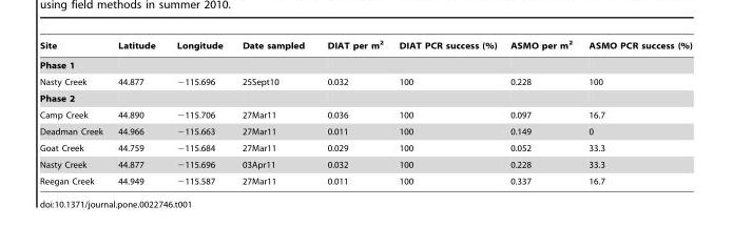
<table><thead><tr><td>Site</td><td>Latitude</td><td>Longitude</td><td>Date sampled</td><td>DIAT per m<sup>2</sup></td><td>DIAT PCR success (%)</td><td>ASMO per m<sup>2</sup></td><td>ASMO PCR success (%)</td></tr></thead><tbody><tr><td colspan="8">Phase 1</td></tr><tr><td>Nasty Creek</td><td>44.877</td><td>−115.696</td><td>25Sept10</td><td>0.032</td><td>100</td><td>0.228</td><td>100</td></tr><tr><td colspan="8">Phase 2</td></tr><tr><td>Camp Creek</td><td>44.890</td><td>−115.706</td><td>27Mar11</td><td>0.036</td><td>100</td><td>0.097</td><td>16.7</td></tr><tr><td>Deadman Creek</td><td>44.966</td><td>−115.663</td><td>27Mar11</td><td>0.011</td><td>100</td><td>0.149</td><td>0</td></tr><tr><td>Goat Creek</td><td>44.759</td><td>−115.684</td><td>27Mar11</td><td>0.029</td><td>100</td><td>0.052</td><td>33.3</td></tr><tr><td>Nasty Creek</td><td>44.877</td><td>−115.696</td><td>03Apr11</td><td>0.032</td><td>100</td><td>0.228</td><td>33.3</td></tr><tr><td>Reegan Creek</td><td>44.949</td><td>−115.587</td><td>27Mar11</td><td>0.011</td><td>100</td><td>0.337</td><td>16.7</td></tr></tbody></table>